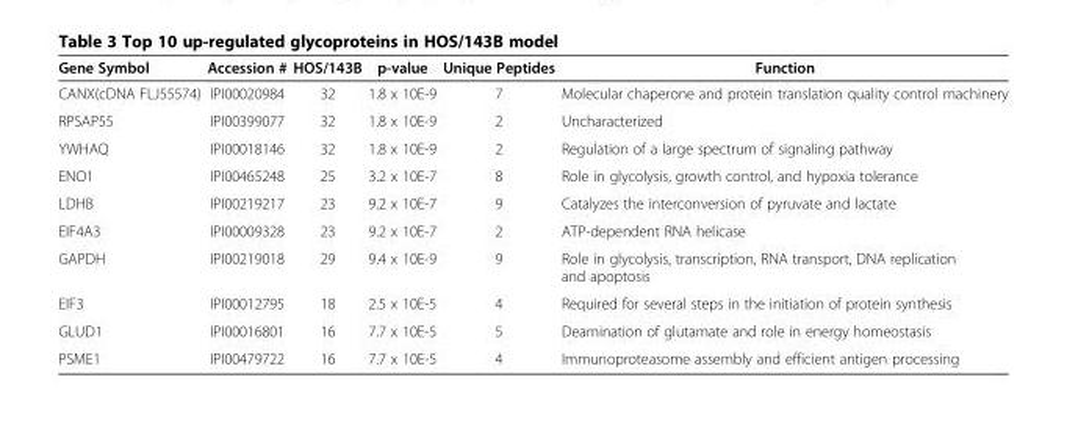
<table><thead><tr><td>Gene Symbol</td><td>Accession #</td><td>HOS/143B</td><td>p-value</td><td>Unique Peptides</td><td>Function</td></tr></thead><tbody><tr><td>CANX(cDNA FLJ55574)</td><td>IPI00020984</td><td>32</td><td>1.8 x 10E-9</td><td>7</td><td>Molecular chaperone and protein translation quality control machinery</td></tr><tr><td>RPSAP55</td><td>IPI00399077</td><td>32</td><td>1.8 x 10E-9</td><td>2</td><td>Uncharacterized</td></tr><tr><td>YWHAQ</td><td>IPI00018146</td><td>32</td><td>1.8 x 10E-9</td><td>2</td><td>Regulation of a large spectrum of signaling pathway</td></tr><tr><td>ENO1</td><td>IPI00465248</td><td>25</td><td>3.2 x 10E-7</td><td>8</td><td>Role in glycolysis, growth control, and hypoxia tolerance</td></tr><tr><td>LDHB</td><td>IPI00219217</td><td>23</td><td>9.2 x 10E-7</td><td>9</td><td>Catalyzes the interconversion of pyruvate and lactate</td></tr><tr><td>EIF4A3</td><td>IPI00009328</td><td>23</td><td>9.2 x 10E-7</td><td>2</td><td>ATP-dependent RNA helicase</td></tr><tr><td>GAPDH</td><td>IPI00219018</td><td>29</td><td>9.4 x 10E-9</td><td>9</td><td>Role in glycolysis, transcription, RNA transport, DNA replication and apoptosis</td></tr><tr><td>EIF3</td><td>IPI00012795</td><td>18</td><td>2.5 x 10E-5</td><td>4</td><td>Required for several steps in the initiation of protein synthesis</td></tr><tr><td>GLUD1</td><td>IPI00016801</td><td>16</td><td>7.7 x 10E-5</td><td>5</td><td>Deamination of glutamate and role in energy homeostasis</td></tr><tr><td>PSME1</td><td>IPI00479722</td><td>16</td><td>7.7 x 10E-5</td><td>4</td><td>Immunoproteasome assembly and efficient antigen processing</td></tr></tbody></table>